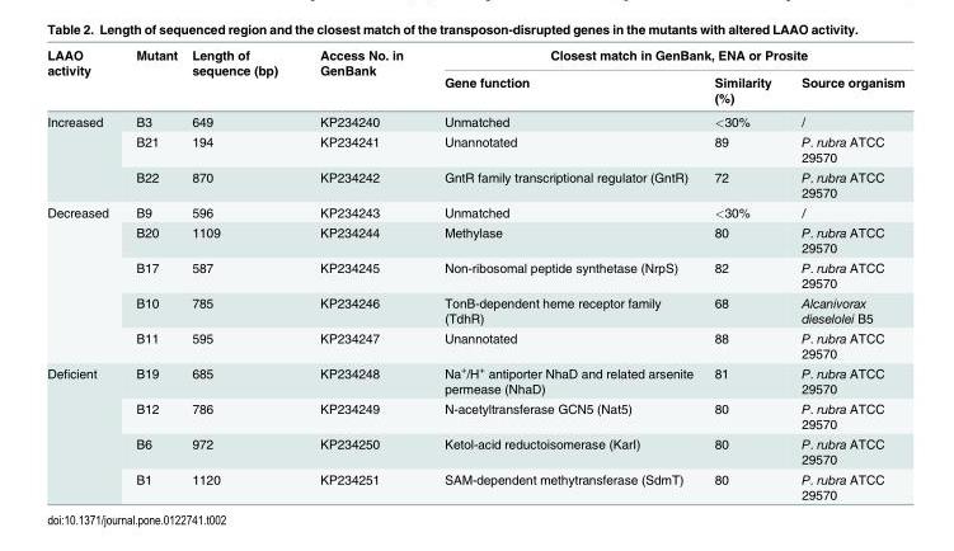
<table><thead><tr><td rowspan="2">LAAO activity</td><td rowspan="2">Mutant</td><td rowspan="2">Length of sequence (bp)</td><td rowspan="2">Access No. in GenBank</td><td colspan="3">Closest match in GenBank, ENA or Prosite</td></tr><tr><td>Gene function</td><td>Similarity (%)</td><td>Source organism</td></tr></thead><tbody><tr><td rowspan="3">Increased</td><td>B3</td><td>649</td><td>KP234240</td><td>Unmatched</td><td>&lt;30%</td><td>/</td></tr><tr><td>B21</td><td>194</td><td>KP234241</td><td>Unannotated</td><td>89</td><td>P. rubra ATCC 29570</td></tr><tr><td>B22</td><td>870</td><td>KP234242</td><td>GntR family transcriptional regulator (GntR)</td><td>72</td><td>P. rubra ATCC 29570</td></tr><tr><td rowspan="5">Decreased</td><td>B9</td><td>596</td><td>KP234243</td><td>Unmatched</td><td>&lt;30%</td><td>/</td></tr><tr><td>B20</td><td>1109</td><td>KP234244</td><td>Methylase</td><td>80</td><td>P. rubra ATCC 29570</td></tr><tr><td>B17</td><td>587</td><td>KP234245</td><td>Non-ribosomal peptide synthetase (NrpS)</td><td>82</td><td>P. rubra ATCC 29570</td></tr><tr><td>B10</td><td>785</td><td>KP234246</td><td>TonB-dependent heme receptor family (TdhR)</td><td>68</td><td>Alcanivorax dieselolei B5</td></tr><tr><td>B11</td><td>595</td><td>KP234247</td><td>Unannotated</td><td>88</td><td>P. rubra ATCC 29570</td></tr><tr><td rowspan="4">Deficient</td><td>B19</td><td>685</td><td>KP234248</td><td>Na<sup>+</sup>/H<sup>+</sup> antiporter NhaD and related arsenite permease (NhaD)</td><td>81</td><td>P. rubra ATCC 29570</td></tr><tr><td>B12</td><td>786</td><td>KP234249</td><td>N-acetyltransferase GCN5 (Nat5)</td><td>80</td><td>P. rubra ATCC 29570</td></tr><tr><td>B6</td><td>972</td><td>KP234250</td><td>Ketol-acid reductoisomerase (KarI)</td><td>80</td><td>P. rubra ATCC 29570</td></tr><tr><td>B1</td><td>1120</td><td>KP234251</td><td>SAM-dependent methytransferase (SdmT)</td><td>80</td><td>P. rubra ATCC 29570</td></tr></tbody></table>